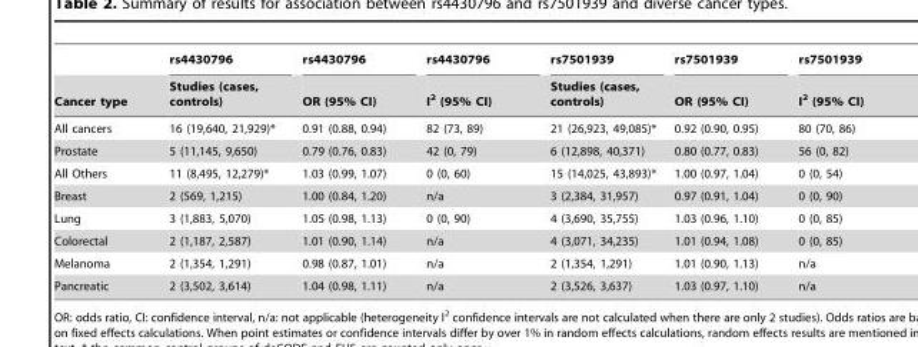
<table><thead><tr><td rowspan="2">Cancer type</td><td rowspan="2">rs4430796 Studies (cases, controls)</td><td rowspan="2">rs4430796 OR (95% CI)</td><td rowspan="2">rs4430796 I<sup>2</sup> (95% CI)</td><td rowspan="2">rs7501939 Studies (cases, controls)</td><td rowspan="2">rs7501939 OR (95% CI)</td><td rowspan="2">rs7501939 I<sup>2</sup> (95% CI)</td></tr><tr></tr></thead><tbody><tr><td>All cancers</td><td>16 (19,640, 21,929)*</td><td>0.91 (0.88, 0.94)</td><td>82 (73, 89)</td><td>21 (26,923, 49,085)*</td><td>0.92 (0.90, 0.95)</td><td>80 (70, 86)</td></tr><tr><td>Prostate</td><td>5 (11,145, 9,650)</td><td>0.79 (0.76, 0.83)</td><td>42 (0, 79)</td><td>6 (12,898, 40,371)</td><td>0.80 (0.77, 0.83)</td><td>56 (0, 82)</td></tr><tr><td>All Others</td><td>11 (8,495, 12,279)*</td><td>1.03 (0.99, 1.07)</td><td>0 (0, 60)</td><td>15 (14,025, 43,893)*</td><td>1.00 (0.97, 1.04)</td><td>0 (0, 54)</td></tr><tr><td>Breast</td><td>2 (569, 1,215)</td><td>1.00 (0.84, 1.20)</td><td>n/a</td><td>3 (2,384, 31,957)</td><td>0.97 (0.91, 1.04)</td><td>0 (0, 90)</td></tr><tr><td>Lung</td><td>3 (1,883, 5,070)</td><td>1.05 (0.98, 1.13)</td><td>0 (0, 90)</td><td>4 (3,690, 35,755)</td><td>1.03 (0.96, 1.10)</td><td>0 (0, 85)</td></tr><tr><td>Colorectal</td><td>2 (1,187, 2,587)</td><td>1.01 (0.90, 1.14)</td><td>n/a</td><td>4 (3,071, 34,235)</td><td>1.01 (0.94, 1.08)</td><td>0 (0, 85)</td></tr><tr><td>Melanoma</td><td>2 (1,354, 1,291)</td><td>0.98 (0.87, 1.01)</td><td>n/a</td><td>2 (1,354, 1,291)</td><td>1.01 (0.90, 1.13)</td><td>n/a</td></tr><tr><td>Pancreatic</td><td>2 (3,502, 3,614)</td><td>1.04 (0.98, 1.11)</td><td>n/a</td><td>2 (3,526, 3,637)</td><td>1.03 (0.97, 1.10)</td><td>n/a</td></tr></tbody></table>